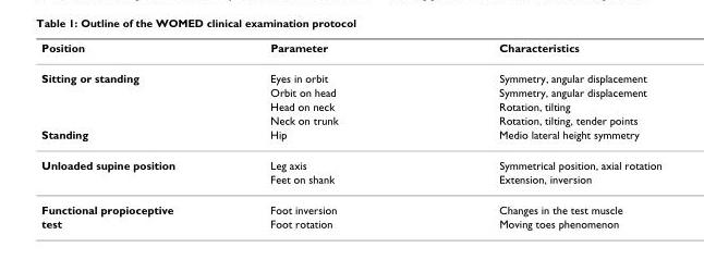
<table><thead><tr><td>Position</td><td>Parameter</td><td>Characteristics</td></tr></thead><tbody><tr><td rowspan="4">Sitting or standing</td><td>Eyes in orbit</td><td>Symmetry, angular displacement</td></tr><tr><td>Orbit on head</td><td>Symmetry, angular displacement</td></tr><tr><td>Head on neck</td><td>Rotation, tilting</td></tr><tr><td>Neck on trunk</td><td>Rotation, tilting, tender points</td></tr><tr><td>Standing</td><td>Hip</td><td>Medio lateral height symmetry</td></tr><tr><td rowspan="2">Unloaded supine position</td><td>Leg axis</td><td>Symmetrical position, axial rotation</td></tr><tr><td>Feet on shank</td><td>Extension, inversion</td></tr><tr><td>Functional propioceptive</td><td>Foot inversion</td><td>Changes in the test muscle</td></tr><tr><td>test</td><td>Foot rotation</td><td>Moving toes phenomenon</td></tr></tbody></table>